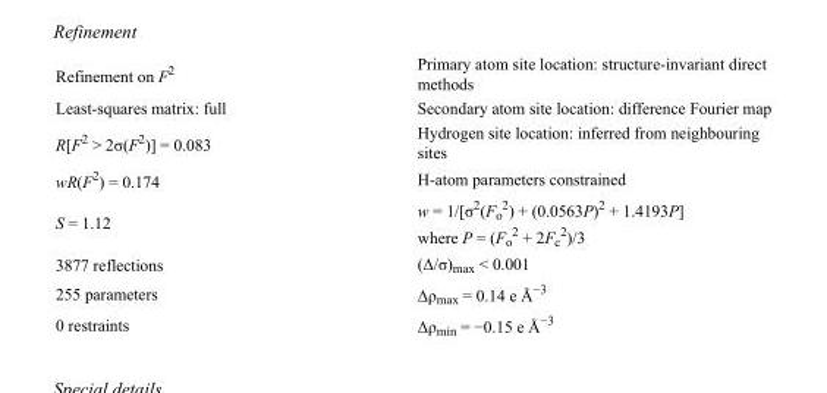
<table><tbody><tr><td>Refinement on F<sup>2</sup></td><td>Primary atom site location: structure-invariant direct methods</td></tr><tr><td>Least-squares matrix: full</td><td>Secondary atom site location: difference Fourier map</td></tr><tr><td>R[F<sup>2</sup> &gt; 2σ(F<sup>2</sup>)] = 0.083</td><td>Hydrogen site location: inferred from neighbouring sites</td></tr><tr><td>wR(F<sup>2</sup>) = 0.174</td><td>H-atom parameters constrained</td></tr><tr><td>S = 1.12</td><td>w = 1/[σ<sup>2</sup>(F<sub>o</sub> <sup>2</sup>) + (0.0563P)<sup>2</sup> + 1.4193P] where P = (F<sub>o</sub> <sup>2</sup> + 2F<sub>c</sub> <sup>2</sup>)/3</td></tr><tr><td>3877 reflections</td><td>(Δ/σ)<sub>max</sub> &lt; 0.001</td></tr><tr><td>255 parameters</td><td>Δρ<sub>max</sub> = 0.14 e Å<sup>−3</sup></td></tr><tr><td>0 restraints</td><td>Δρ<sub>min</sub> = −0.15 e Å<sup>−3</sup></td></tr></tbody></table>